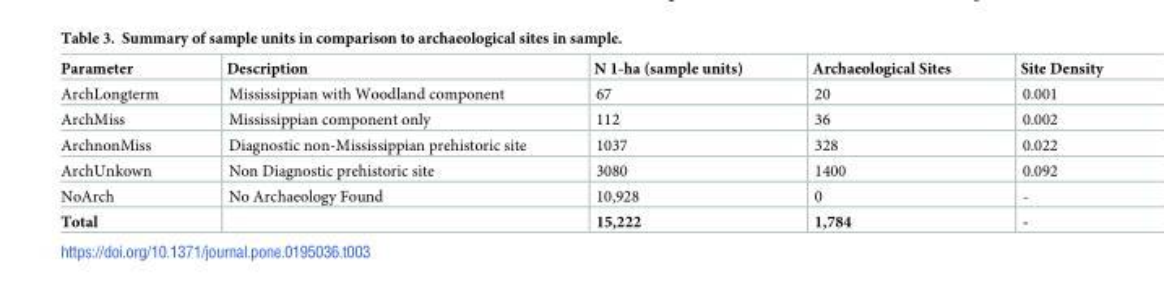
<table><thead><tr><td>Parameter</td><td>Description</td><td>N 1-ha (sample units)</td><td>Archaeological Sites</td><td>Site Density</td></tr></thead><tbody><tr><td>ArchLongterm</td><td>Mississippian with Woodland component</td><td>67</td><td>20</td><td>0.001</td></tr><tr><td>ArchMiss</td><td>Mississippian component only</td><td>112</td><td>36</td><td>0.002</td></tr><tr><td>ArchnonMiss</td><td>Diagnostic non-Mississippian prehistoric site</td><td>1037</td><td>328</td><td>0.022</td></tr><tr><td>ArchUnkown</td><td>Non Diagnostic prehistoric site</td><td>3080</td><td>1400</td><td>0.092</td></tr><tr><td>NoArch</td><td>No Archaeology Found</td><td>10,928</td><td>0</td><td>-</td></tr><tr><td>Total</td><td></td><td>15,222</td><td>1,784</td><td>-</td></tr></tbody></table>